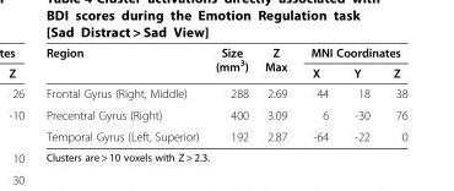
<table><thead><tr><td rowspan="2">Region</td><td rowspan="2">Size (mm<sup>3</sup>)</td><td rowspan="2">Z Max</td><td colspan="3">MNI Coordinates</td></tr><tr><td>X</td><td>Y</td><td>Z</td></tr></thead><tbody><tr><td>Frontal Gyrus (Right, Middle)</td><td>288</td><td>2.69</td><td>44</td><td>18</td><td>38</td></tr><tr><td>Precentral Gyrus (Right)</td><td>400</td><td>3.09</td><td>6</td><td>-30</td><td>76</td></tr><tr><td>Temporal Gyrus (Left, Superior)</td><td>192</td><td>2.87</td><td>-64</td><td>-22</td><td>0</td></tr></tbody></table>